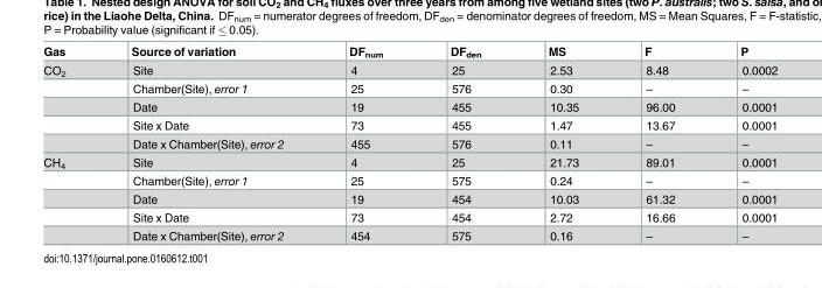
<table><thead><tr><td>Gas</td><td>Source of variation</td><td>DF<sub>num</sub></td><td>DF<sub>den</sub></td><td>MS</td><td>F</td><td>P</td></tr></thead><tbody><tr><td rowspan="5">CO<sub>2</sub></td><td>Site</td><td>4</td><td>25</td><td>2.53</td><td>8.48</td><td>0.0002</td></tr><tr><td>Chamber(Site), error 1</td><td>25</td><td>576</td><td>0.30</td><td>–</td><td>–</td></tr><tr><td>Date</td><td>19</td><td>455</td><td>10.35</td><td>96.00</td><td>0.0001</td></tr><tr><td>Site x Date</td><td>73</td><td>455</td><td>1.47</td><td>13.67</td><td>0.0001</td></tr><tr><td>Date x Chamber(Site), error 2</td><td>455</td><td>576</td><td>0.11</td><td>–</td><td>–</td></tr><tr><td rowspan="5">CH<sub>4</sub></td><td>Site</td><td>4</td><td>25</td><td>21.73</td><td>89.01</td><td>0.0001</td></tr><tr><td>Chamber(Site), error 1</td><td>25</td><td>575</td><td>0.24</td><td>–</td><td>–</td></tr><tr><td>Date</td><td>19</td><td>454</td><td>10.03</td><td>61.32</td><td>0.0001</td></tr><tr><td>Site x Date</td><td>73</td><td>454</td><td>2.72</td><td>16.66</td><td>0.0001</td></tr><tr><td>Date x Chamber(Site), error 2</td><td>454</td><td>575</td><td>0.16</td><td>–</td><td>–</td></tr></tbody></table>